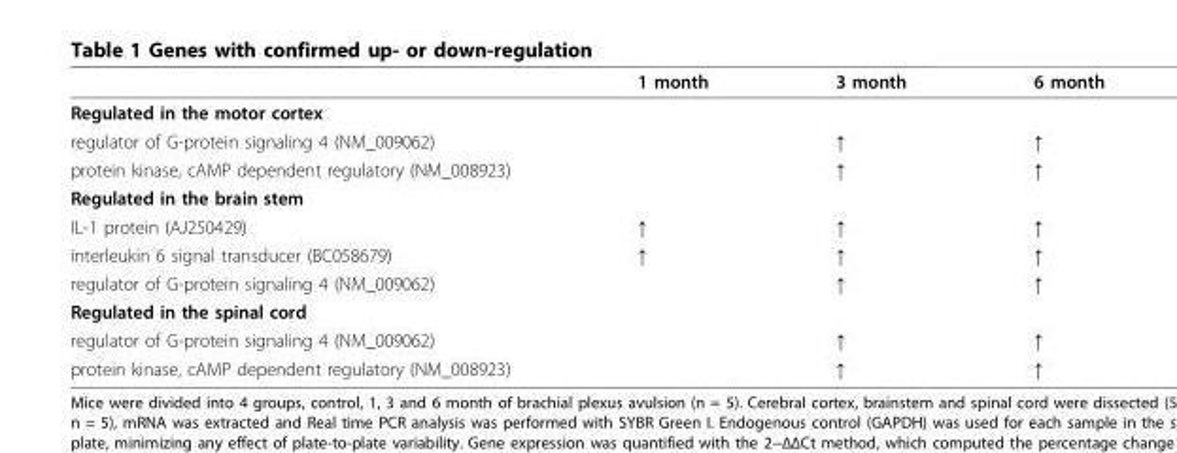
<table><thead><tr><td></td><td>1 month</td><td>3 month</td><td>6 month</td></tr></thead><tbody><tr><td colspan="4">Regulated in the motor cortex</td></tr><tr><td>regulator of G-protein signaling 4 (NM_009062)</td><td></td><td>↑</td><td>↑</td></tr><tr><td>protein kinase, cAMP dependent regulatory (NM_008923)</td><td></td><td>↑</td><td>↑</td></tr><tr><td colspan="4">Regulated in the brain stem</td></tr><tr><td>IL-1 protein (AJ250429)</td><td>↑</td><td>↑</td><td>↑</td></tr><tr><td>interleukin 6 signal transducer (BC058679)</td><td>↑</td><td>↑</td><td>↑</td></tr><tr><td>regulator of G-protein signaling 4 (NM_009062)</td><td></td><td>↑</td><td>↑</td></tr><tr><td colspan="4">Regulated in the spinal cord</td></tr><tr><td>regulator of G-protein signaling 4 (NM_009062)</td><td></td><td>↑</td><td>↑</td></tr><tr><td>protein kinase, cAMP dependent regulatory (NM_008923)</td><td></td><td>↑</td><td>↑</td></tr></tbody></table>